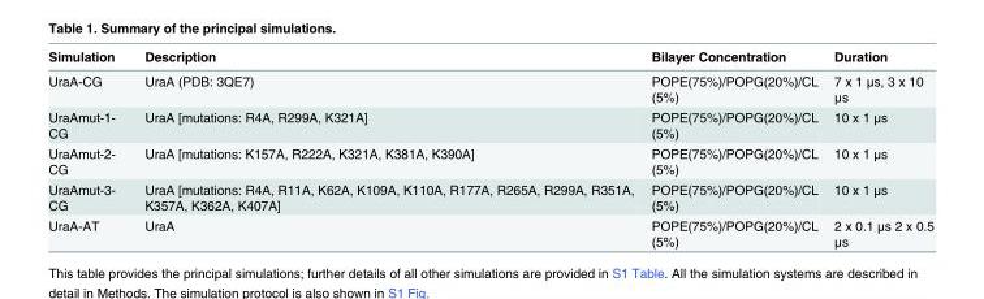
<table><thead><tr><td>Simulation</td><td>Description</td><td>Bilayer Concentration</td><td>Duration</td></tr></thead><tbody><tr><td>UraA-CG</td><td>UraA (PDB: 3QE7)</td><td>POPE(75%)/POPG(20%)/CL (5%)</td><td>7 x 1 μs, 3 x 10 μs</td></tr><tr><td>UraAmut-1- CG</td><td>UraA [mutations: R4A, R299A, K321A]</td><td>POPE(75%)/POPG(20%)/CL (5%)</td><td>10 x 1 μs</td></tr><tr><td>UraAmut-2- CG</td><td>UraA [mutations: K157A, R222A, K321A, K381A, K390A]</td><td>POPE(75%)/POPG(20%)/CL (5%)</td><td>10 x 1 μs</td></tr><tr><td>UraAmut-3- CG</td><td>UraA [mutations: R4A, R11A, K62A, K109A, K110A, R177A, R265A, R299A, R351A, K357A, K362A, K407A]</td><td>POPE(75%)/POPG(20%)/CL (5%)</td><td>10 x 1 μs</td></tr><tr><td>UraA-AT</td><td>UraA</td><td>POPE(75%)/POPG(20%)/CL (5%)</td><td>2 x 0.1 μs 2 x 0.5 μs</td></tr></tbody></table>